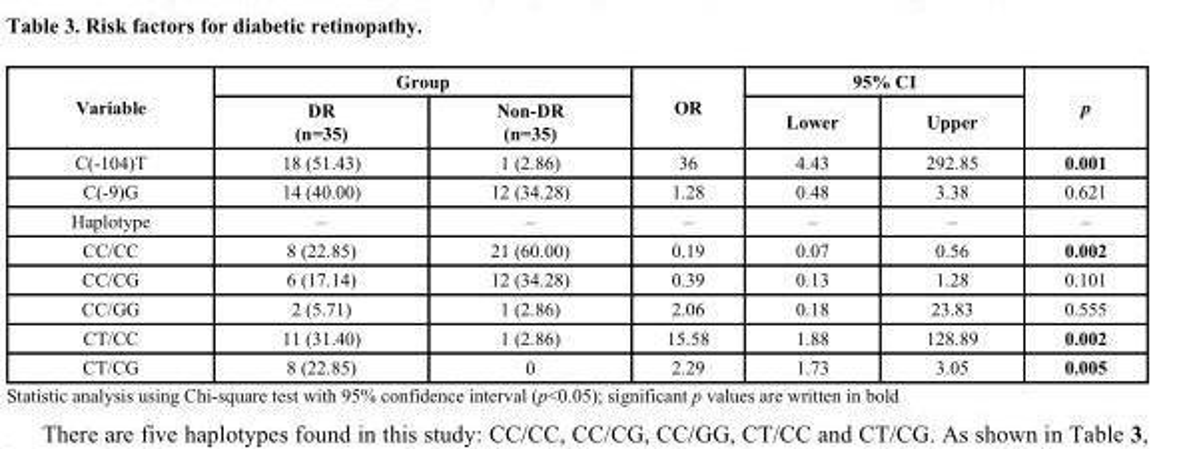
<table><thead><tr><td rowspan="2">Variable</td><td colspan="2">Group</td><td rowspan="2">OR</td><td colspan="2">95% CI</td><td rowspan="2">p</td></tr><tr><td>DR (n=35)</td><td>Non-DR (n=35)</td><td>Lower</td><td>Upper</td></tr></thead><tbody><tr><td>C(-104)T</td><td>18 (51.43)</td><td>1 (2.86)</td><td>36</td><td>4.43</td><td>292.85</td><td>0.001</td></tr><tr><td>C(-9)G</td><td>14 (40.00)</td><td>12 (34.28)</td><td>1.28</td><td>0.48</td><td>3.38</td><td>0.621</td></tr><tr><td>Haplotype</td><td>–</td><td>–</td><td>–</td><td>–</td><td>–</td><td>–</td></tr><tr><td>CC/CC</td><td>8 (22.85)</td><td>21 (60.00)</td><td>0.19</td><td>0.07</td><td>0.56</td><td>0.002</td></tr><tr><td>CC/CG</td><td>6 (17.14)</td><td>12 (34.28)</td><td>0.39</td><td>0.13</td><td>1.28</td><td>0.101</td></tr><tr><td>CC/GG</td><td>2 (5.71)</td><td>1 (2.86)</td><td>2.06</td><td>0.18</td><td>23.83</td><td>0.555</td></tr><tr><td>CT/CC</td><td>11 (31.40)</td><td>1 (2.86)</td><td>15.58</td><td>1.88</td><td>128.89</td><td>0.002</td></tr><tr><td>CT/CG</td><td>8 (22.85)</td><td>0</td><td>2.29</td><td>1.73</td><td>3.05</td><td>0.005</td></tr></tbody></table>